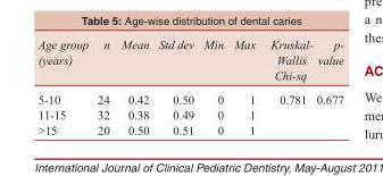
<table><tbody><tr><td>Age group (years)</td><td>n</td><td>Mean</td><td>Std dev</td><td>Min</td><td>Max</td><td>Kruskal- Wallis Chi-sq</td><td>p- value</td></tr><tr><td>5-10</td><td>24</td><td>0.42</td><td>0.50</td><td>0</td><td>1</td><td>0.781</td><td>0.677</td></tr><tr><td>11-15</td><td>32</td><td>0.38</td><td>0.49</td><td>0</td><td>1</td><td></td><td></td></tr><tr><td>&gt;15</td><td>20</td><td>0.50</td><td>0.51</td><td>0</td><td>1</td><td></td><td></td></tr></tbody></table>